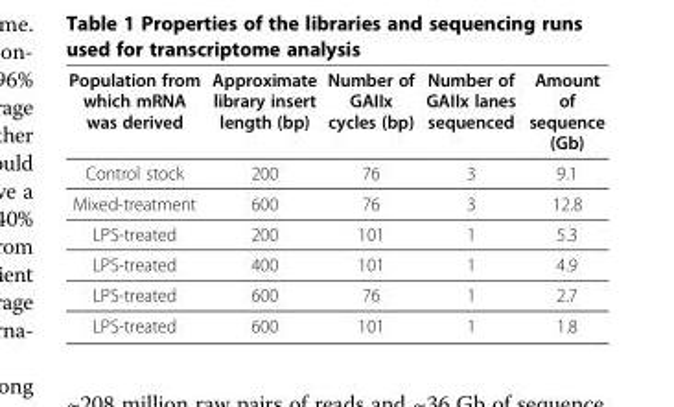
<table><thead><tr><td>Population from which mRNA was derived</td><td>Approximate library insert length (bp)</td><td>Number of GAIIx cycles (bp)</td><td>Number of GAIIx lanes sequenced</td><td>Amount of sequence (Gb)</td></tr></thead><tbody><tr><td>Control stock</td><td>200</td><td>76</td><td>3</td><td>9.1</td></tr><tr><td>Mixed-treatment</td><td>600</td><td>76</td><td>3</td><td>12.8</td></tr><tr><td>LPS-treated</td><td>200</td><td>101</td><td>1</td><td>5.3</td></tr><tr><td>LPS-treated</td><td>400</td><td>101</td><td>1</td><td>4.9</td></tr><tr><td>LPS-treated</td><td>600</td><td>76</td><td>1</td><td>2.7</td></tr><tr><td>LPS-treated</td><td>600</td><td>101</td><td>1</td><td>1.8</td></tr></tbody></table>